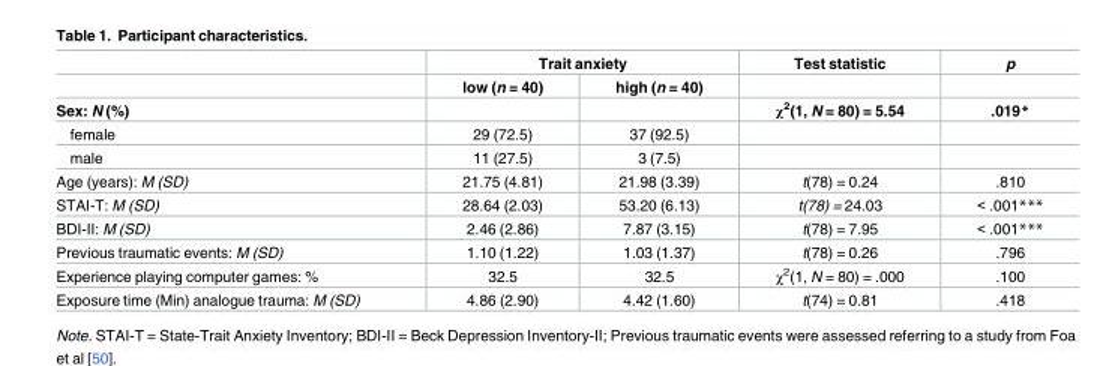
<table><thead><tr><td rowspan="3">Sex: N (%)</td><td colspan="2">Trait anxiety</td><td rowspan="3">Test statistic χ<sup>2</sup>(1, N = 80) = 5.54</td><td rowspan="3">p .019*</td></tr><tr><td rowspan="2">low (n = 40)</td><td rowspan="2">high (n = 40)</td></tr><tr></tr></thead><tbody><tr><td>female</td><td>29 (72.5)</td><td>37 (92.5)</td><td></td><td></td></tr><tr><td>male</td><td>11 (27.5)</td><td>3 (7.5)</td><td></td><td></td></tr><tr><td>Age (years): M (SD)</td><td>21.75 (4.81)</td><td>21.98 (3.39)</td><td>t(78) = 0.24</td><td>.810</td></tr><tr><td>STAI-T: M (SD)</td><td>28.64 (2.03)</td><td>53.20 (6.13)</td><td>t(78) = 24.03</td><td>&lt; .001***</td></tr><tr><td>BDI-II: M (SD)</td><td>2.46 (2.86)</td><td>7.87 (3.15)</td><td>t(78) = 7.95</td><td>&lt; .001***</td></tr><tr><td>Previous traumatic events: M (SD)</td><td>1.10 (1.22)</td><td>1.03 (1.37)</td><td>t(78) = 0.26</td><td>.796</td></tr><tr><td>Experience playing computer games: %</td><td>32.5</td><td>32.5</td><td>χ<sup>2</sup>(1, N = 80) = .000</td><td>.100</td></tr><tr><td>Exposure time (Min) analogue trauma: M (SD)</td><td>4.86 (2.90)</td><td>4.42 (1.60)</td><td>t(74) = 0.81</td><td>.418</td></tr></tbody></table>